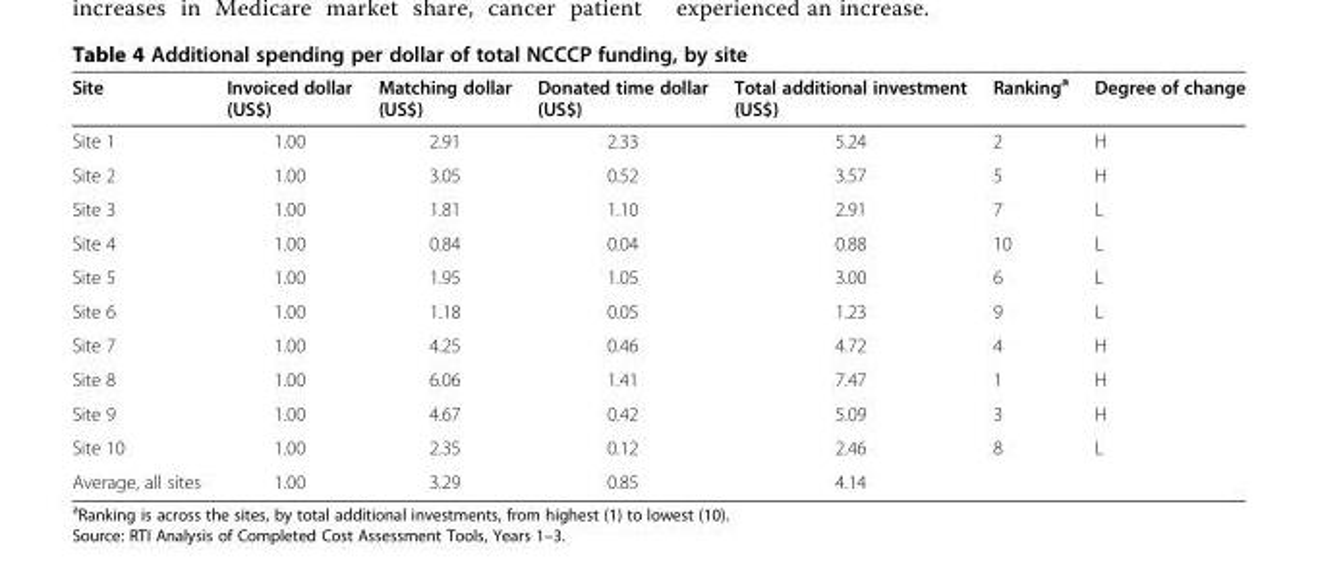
<table><thead><tr><td>Site</td><td>Invoiced dollar (US$)</td><td>Matching dollar (US$)</td><td>Donated time dollar (US$)</td><td>Total additional investment (US$)</td><td>Ranking<sup>a</sup></td><td>Degree of change</td></tr></thead><tbody><tr><td>Site 1</td><td>1.00</td><td>2.91</td><td>2.33</td><td>5.24</td><td>2</td><td>H</td></tr><tr><td>Site 2</td><td>1.00</td><td>3.05</td><td>0.52</td><td>3.57</td><td>5</td><td>H</td></tr><tr><td>Site 3</td><td>1.00</td><td>1.81</td><td>1.10</td><td>2.91</td><td>7</td><td>L</td></tr><tr><td>Site 4</td><td>1.00</td><td>0.84</td><td>0.04</td><td>0.88</td><td>10</td><td>L</td></tr><tr><td>Site 5</td><td>1.00</td><td>1.95</td><td>1.05</td><td>3.00</td><td>6</td><td>L</td></tr><tr><td>Site 6</td><td>1.00</td><td>1.18</td><td>0.05</td><td>1.23</td><td>9</td><td>L</td></tr><tr><td>Site 7</td><td>1.00</td><td>4.25</td><td>0.46</td><td>4.72</td><td>4</td><td>H</td></tr><tr><td>Site 8</td><td>1.00</td><td>6.06</td><td>1.41</td><td>7.47</td><td>1</td><td>H</td></tr><tr><td>Site 9</td><td>1.00</td><td>4.67</td><td>0.42</td><td>5.09</td><td>3</td><td>H</td></tr><tr><td>Site 10</td><td>1.00</td><td>2.35</td><td>0.12</td><td>2.46</td><td>8</td><td>L</td></tr><tr><td>Average, all sites</td><td>1.00</td><td>3.29</td><td>0.85</td><td>4.14</td><td></td><td></td></tr></tbody></table>